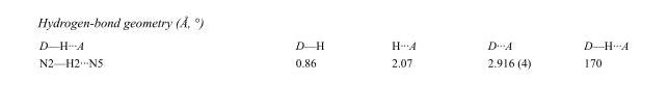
<table><tbody><tr><td>D—H···A</td><td>D—H</td><td>H···A</td><td>D···A</td><td>D—H···A</td></tr><tr><td>N2—H2···N5</td><td>0.86</td><td>2.07</td><td>2.916 (4)</td><td>170</td></tr></tbody></table>